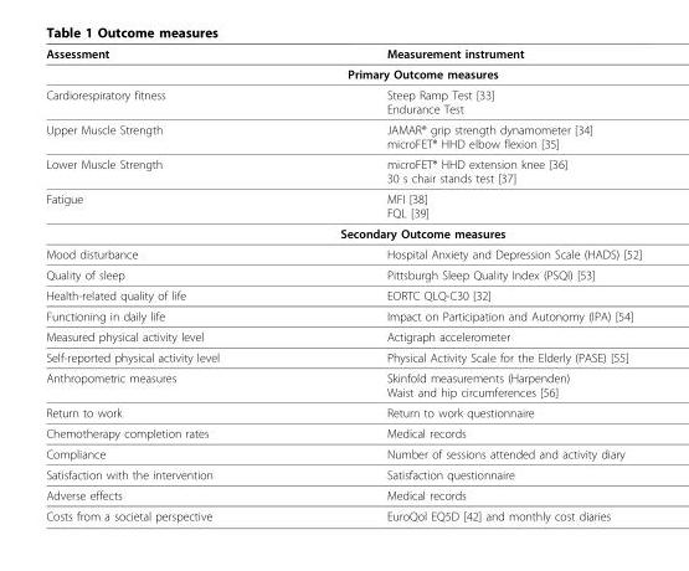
<table><thead><tr><td>Assessment</td><td>Measurement instrument</td></tr></thead><tbody><tr><td colspan="2">Primary Outcome measures</td></tr><tr><td>Cardiorespiratory fitness</td><td>Steep Ramp Test [33] Endurance Test</td></tr><tr><td>Upper Muscle Strength</td><td>JAMAR<sup>®</sup> grip strength dynamometer [34] microFET<sup>®</sup> HHD elbow flexion [35]</td></tr><tr><td>Lower Muscle Strength</td><td>microFET<sup>®</sup> HHD extension knee [36] 30 s chair stands test [37]</td></tr><tr><td>Fatigue</td><td>MFI [38] FQL [39]</td></tr><tr><td colspan="2">Secondary Outcome measures</td></tr><tr><td>Mood disturbance</td><td>Hospital Anxiety and Depression Scale (HADS) [52]</td></tr><tr><td>Quality of sleep</td><td>Pittsburgh Sleep Quality Index (PSQI) [53]</td></tr><tr><td>Health-related quality of life</td><td>EORTC QLQ-C30 [32]</td></tr><tr><td>Functioning in daily life</td><td>Impact on Participation and Autonomy (IPA) [54]</td></tr><tr><td>Measured physical activity level</td><td>Actigraph accelerometer</td></tr><tr><td>Self-reported physical activity level</td><td>Physical Activity Scale for the Elderly (PASE) [55]</td></tr><tr><td>Anthropometric measures</td><td>Skinfold measurements (Harpenden) Waist and hip circumferences [56]</td></tr><tr><td>Return to work</td><td>Return to work questionnaire</td></tr><tr><td>Chemotherapy completion rates</td><td>Medical records</td></tr><tr><td>Compliance</td><td>Number of sessions attended and activity diary</td></tr><tr><td>Satisfaction with the intervention</td><td>Satisfaction questionnaire</td></tr><tr><td>Adverse effects</td><td>Medical records</td></tr><tr><td>Costs from a societal perspective</td><td>EuroQol EQ5D [42] and monthly cost diaries</td></tr></tbody></table>